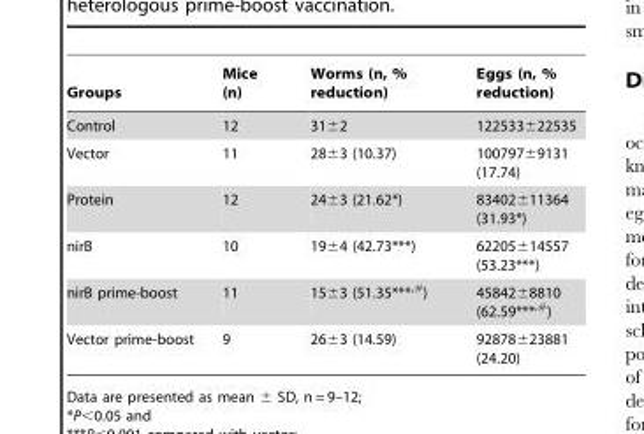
<table><thead><tr><td>Groups</td><td>Mice (n)</td><td>Worms (n, % reduction)</td><td>Eggs (n, % reduction)</td></tr></thead><tbody><tr><td>Control</td><td>12</td><td>31±2</td><td>122533±22535</td></tr><tr><td>Vector</td><td>11</td><td>28±3 (10.37)</td><td>100797±9131 (17.74)</td></tr><tr><td>Protein</td><td>12</td><td>24±3 (21.62*)</td><td>83402±11364 (31.93*)</td></tr><tr><td>nirB</td><td>10</td><td>19±4 (42.73***)</td><td>62205±14557 (53.23***)</td></tr><tr><td>nirB prime-boost</td><td>11</td><td>15±3 (51.35***<sup>,</sup>#)</td><td>45842±8810 (62.59***<sup>,</sup>#)</td></tr><tr><td>Vector prime-boost</td><td>9</td><td>26±3 (14.59)</td><td>92878±23881 (24.20)</td></tr></tbody></table>